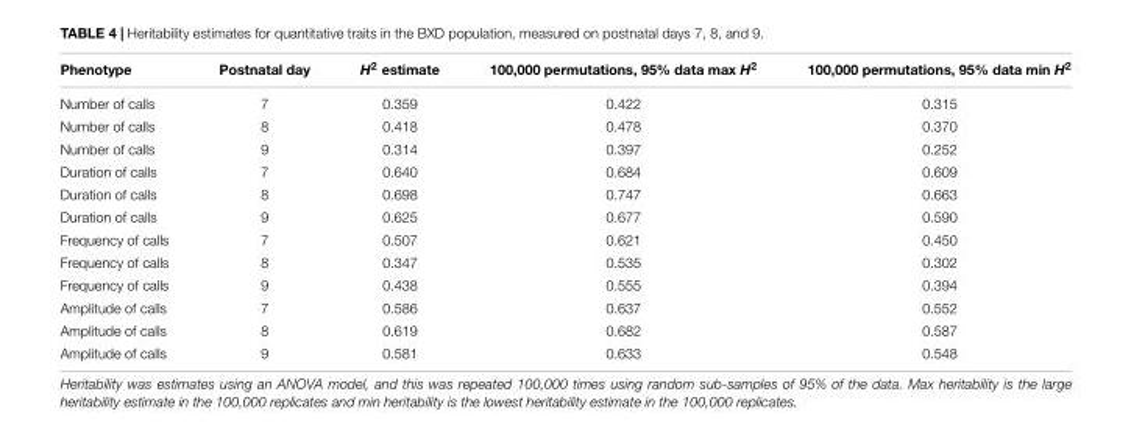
<table><thead><tr><td>Phenotype</td><td>Postnatal day</td><td>H<sup>2</sup> estimate</td><td>100,000 permutations, 95% data max H<sup>2</sup></td><td>100,000 permutations, 95% data min H<sup>2</sup></td></tr></thead><tbody><tr><td>Number of calls</td><td>7</td><td>0.359</td><td>0.422</td><td>0.315</td></tr><tr><td>Number of calls</td><td>8</td><td>0.418</td><td>0.478</td><td>0.370</td></tr><tr><td>Number of calls</td><td>9</td><td>0.314</td><td>0.397</td><td>0.252</td></tr><tr><td>Duration of calls</td><td>7</td><td>0.640</td><td>0.684</td><td>0.609</td></tr><tr><td>Duration of calls</td><td>8</td><td>0.698</td><td>0.747</td><td>0.663</td></tr><tr><td>Duration of calls</td><td>9</td><td>0.625</td><td>0.677</td><td>0.590</td></tr><tr><td>Frequency of calls</td><td>7</td><td>0.507</td><td>0.621</td><td>0.450</td></tr><tr><td>Frequency of calls</td><td>8</td><td>0.347</td><td>0.535</td><td>0.302</td></tr><tr><td>Frequency of calls</td><td>9</td><td>0.438</td><td>0.555</td><td>0.394</td></tr><tr><td>Amplitude of calls</td><td>7</td><td>0.586</td><td>0.637</td><td>0.552</td></tr><tr><td>Amplitude of calls</td><td>8</td><td>0.619</td><td>0.682</td><td>0.587</td></tr><tr><td>Amplitude of calls</td><td>9</td><td>0.581</td><td>0.633</td><td>0.548</td></tr></tbody></table>